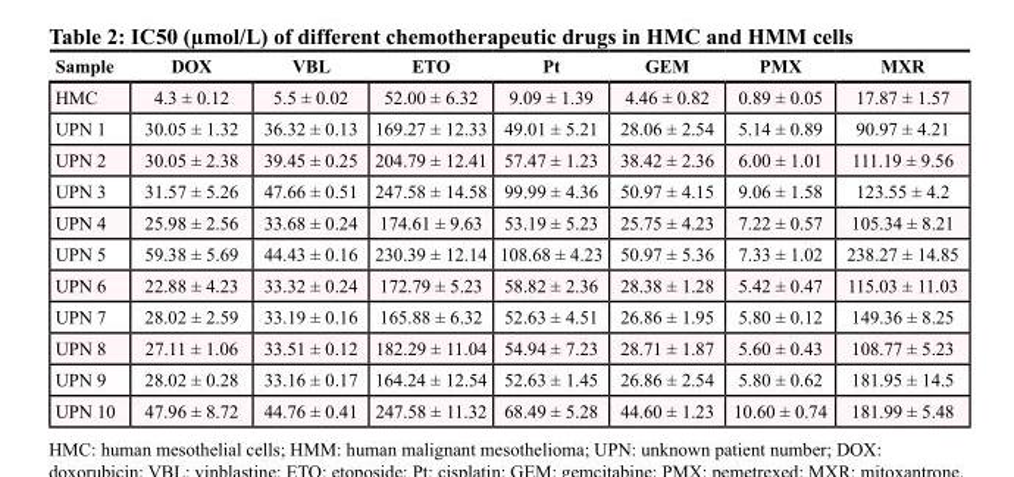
<table><thead><tr><td>Sample</td><td>DOX</td><td>VBL</td><td>ETO</td><td>Pt</td><td>GEM</td><td>PMX</td><td>MXR</td></tr></thead><tbody><tr><td>HMC</td><td>4.3 ± 0.12</td><td>5.5 ± 0.02</td><td>52.00 ± 6.32</td><td>9.09 ± 1.39</td><td>4.46 ± 0.82</td><td>0.89 ± 0.05</td><td>17.87 ± 1.57</td></tr><tr><td>UPN 1</td><td>30.05 ± 1.32</td><td>36.32 ± 0.13</td><td>169.27 ± 12.33</td><td>49.01 ± 5.21</td><td>28.06 ± 2.54</td><td>5.14 ± 0.89</td><td>90.97 ± 4.21</td></tr><tr><td>UPN 2</td><td>30.05 ± 2.38</td><td>39.45 ± 0.25</td><td>204.79 ± 12.41</td><td>57.47 ± 1.23</td><td>38.42 ± 2.36</td><td>6.00 ± 1.01</td><td>111.19 ± 9.56</td></tr><tr><td>UPN 3</td><td>31.57 ± 5.26</td><td>47.66 ± 0.51</td><td>247.58 ± 14.58</td><td>99.99 ± 4.36</td><td>50.97 ± 4.15</td><td>9.06 ± 1.58</td><td>123.55 ± 4.2</td></tr><tr><td>UPN 4</td><td>25.98 ± 2.56</td><td>33.68 ± 0.24</td><td>174.61 ± 9.63</td><td>53.19 ± 5.23</td><td>25.75 ± 4.23</td><td>7.22 ± 0.57</td><td>105.34 ± 8.21</td></tr><tr><td>UPN 5</td><td>59.38 ± 5.69</td><td>44.43 ± 0.16</td><td>230.39 ± 12.14</td><td>108.68 ± 4.23</td><td>50.97 ± 5.36</td><td>7.33 ± 1.02</td><td>238.27 ± 14.85</td></tr><tr><td>UPN 6</td><td>22.88 ± 4.23</td><td>33.32 ± 0.24</td><td>172.79 ± 5.23</td><td>58.82 ± 2.36</td><td>28.38 ± 1.28</td><td>5.42 ± 0.47</td><td>115.03 ± 11.03</td></tr><tr><td>UPN 7</td><td>28.02 ± 2.59</td><td>33.19 ± 0.16</td><td>165.88 ± 6.32</td><td>52.63 ± 4.51</td><td>26.86 ± 1.95</td><td>5.80 ± 0.12</td><td>149.36 ± 8.25</td></tr><tr><td>UPN 8</td><td>27.11 ± 1.06</td><td>33.51 ± 0.12</td><td>182.29 ± 11.04</td><td>54.94 ± 7.23</td><td>28.71 ± 1.87</td><td>5.60 ± 0.43</td><td>108.77 ± 5.23</td></tr><tr><td>UPN 9</td><td>28.02 ± 0.28</td><td>33.16 ± 0.17</td><td>164.24 ± 12.54</td><td>52.63 ± 1.45</td><td>26.86 ± 2.54</td><td>5.80 ± 0.62</td><td>181.95 ± 14.5</td></tr><tr><td>UPN 10</td><td>47.96 ± 8.72</td><td>44.76 ± 0.41</td><td>247.58 ± 11.32</td><td>68.49 ± 5.28</td><td>44.60 ± 1.23</td><td>10.60 ± 0.74</td><td>181.99 ± 5.48</td></tr></tbody></table>